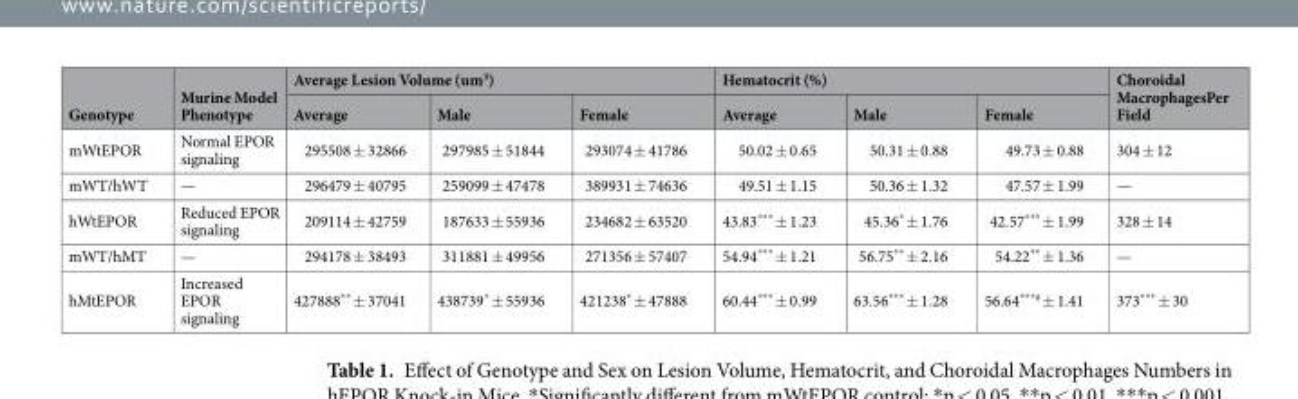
<table><thead><tr><td rowspan="2">Genotype</td><td rowspan="2">Murine Model Phenotype</td><td colspan="3">Average Lesion Volume (um<sup>3</sup>)</td><td colspan="3">Hematocrit (%)</td><td rowspan="2">Choroidal MacrophagesPer Field</td></tr><tr><td>Average</td><td>Male</td><td>Female</td><td>Average</td><td>Male</td><td>Female</td></tr></thead><tbody><tr><td>mWtEPOR</td><td>Normal EPOR signaling</td><td>295508 ± 32866</td><td>297985 ± 51844</td><td>293074 ± 41786</td><td>50.02 ± 0.65</td><td>50.31 ± 0.88</td><td>49.73 ± 0.88</td><td>304 ± 12</td></tr><tr><td>mWT/hWT</td><td>—</td><td>296479 ± 40795</td><td>259099 ± 47478</td><td>389931 ± 74636</td><td>49.51 ± 1.15</td><td>50.36 ± 1.32</td><td>47.57 ± 1.99</td><td>—</td></tr><tr><td>hWtEPOR</td><td>Reduced EPOR signaling</td><td>209114 ± 42759</td><td>187633 ± 55936</td><td>234682 ± 63520</td><td>43.83*** ± 1.23</td><td>45.36* ± 1.76</td><td>42.57*** ± 1.99</td><td>328 ± 14</td></tr><tr><td>mWT/hMT</td><td>—</td><td>294178 ± 38493</td><td>311881 ± 49956</td><td>271356 ± 57407</td><td>54.94*** ± 1.21</td><td>56.75** ± 2.16</td><td>54.22** ± 1.36</td><td>—</td></tr><tr><td>hMtEPOR</td><td>Increased EPOR signaling</td><td>427888** ± 37041</td><td>438739* ± 55936</td><td>421238* ± 47888</td><td>60.44*** ± 0.99</td><td>63.56*** ± 1.28</td><td>56.64<sup>***#</sup> ± 1.41</td><td>373*** ± 30</td></tr></tbody></table>